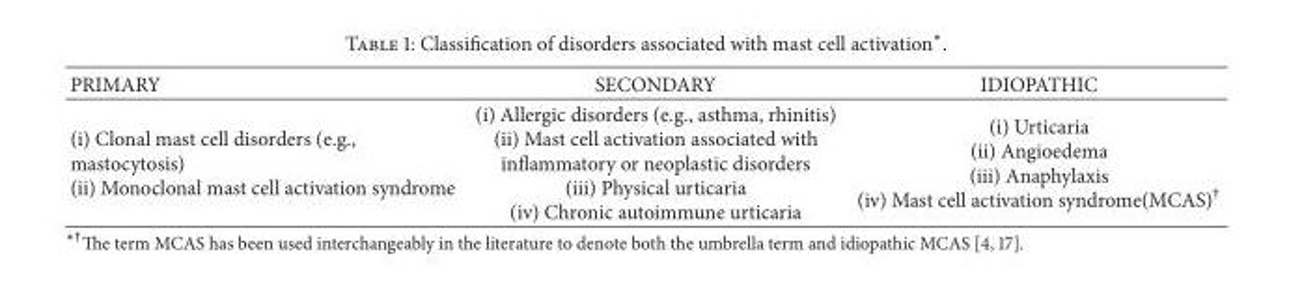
<table><thead><tr><td>PRIMARY</td><td>SECONDARY</td><td>IDIOPATHIC</td></tr></thead><tbody><tr><td>(i) Clonal mast cell disorders (e.g., mastocytosis) (ii) Monoclonal mast cell activation syndrome</td><td>(i) Allergic disorders (e.g., asthma, rhinitis) (ii) Mast cell activation associated with inflammatory or neoplastic disorders (iii) Physical urticaria (iv) Chronic autoimmune urticaria</td><td>(i) Urticaria (ii) Angioedema (iii) Anaphylaxis (iv) Mast cell activation syndrome(MCAS)<sup>†</sup></td></tr></tbody></table>